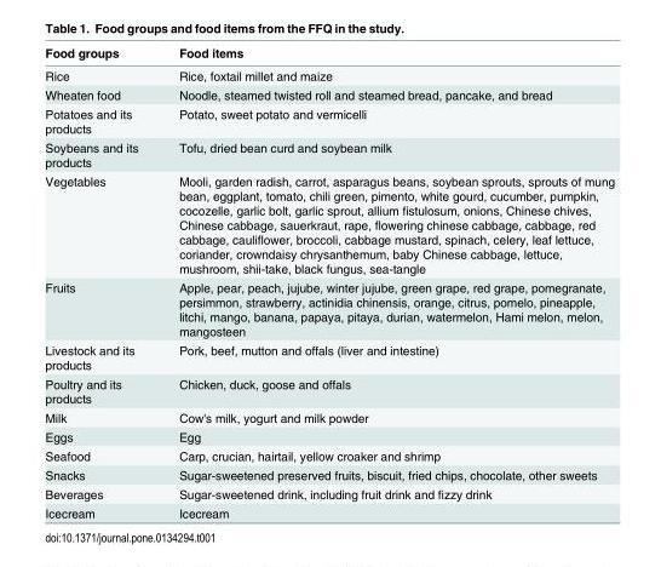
<table><thead><tr><td>Food groups</td><td>Food items</td></tr></thead><tbody><tr><td>Rice</td><td>Rice, foxtail millet and maize</td></tr><tr><td>Wheaten food</td><td>Noodle, steamed twisted roll and steamed bread, pancake, and bread</td></tr><tr><td>Potatoes and its products</td><td>Potato, sweet potato and vermicelli</td></tr><tr><td>Soybeans and its products</td><td>Tofu, dried bean curd and soybean milk</td></tr><tr><td>Vegetables</td><td>Mooli, garden radish, carrot, asparagus beans, soybean sprouts, sprouts of mung bean, eggplant, tomato, chili green, pimento, white gourd, cucumber, pumpkin, cocozelle, garlic bolt, garlic sprout, allium fistulosum, onions, Chinese chives, Chinese cabbage, sauerkraut, rape, flowering chinese cabbage, cabbage, red cabbage, cauliflower, broccoli, cabbage mustard, spinach, celery, leaf lettuce, coriander, crowndaisy chrysanthemum, baby Chinese cabbage, lettuce, mushroom, shii-take, black fungus, sea-tangle</td></tr><tr><td>Fruits</td><td>Apple, pear, peach, jujube, winter jujube, green grape, red grape, pomegranate, persimmon, strawberry, actinidia chinensis, orange, citrus, pomelo, pineapple, litchi, mango, banana, papaya, pitaya, durian, watermelon, Hami melon, melon, mangosteen</td></tr><tr><td>Livestock and its products</td><td>Pork, beef, mutton and offals (liver and intestine)</td></tr><tr><td>Poultry and its products</td><td>Chicken, duck, goose and offals</td></tr><tr><td>Milk</td><td>Cow&#x27;s milk, yogurt and milk powder</td></tr><tr><td>Eggs</td><td>Egg</td></tr><tr><td>Seafood</td><td>Carp, crucian, hairtail, yellow croaker and shrimp</td></tr><tr><td>Snacks</td><td>Sugar-sweetened preserved fruits, biscuit, fried chips, chocolate, other sweets</td></tr><tr><td>Beverages</td><td>Sugar-sweetened drink, including fruit drink and fizzy drink</td></tr><tr><td>Icecream</td><td>Icecream</td></tr></tbody></table>